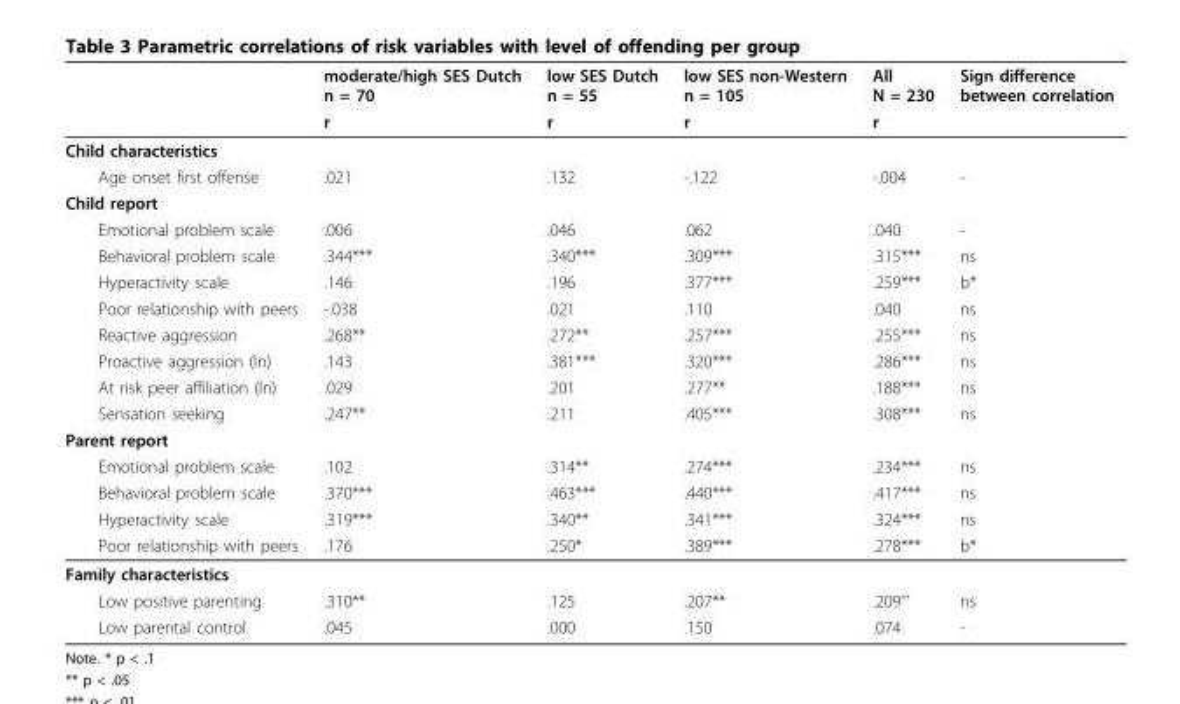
<table><thead><tr><td rowspan="2"></td><td rowspan="2">moderate/high SES Dutch n = 70 r</td><td rowspan="2">low SES Dutch n = 55 r</td><td rowspan="2">low SES non-Western n = 105 r</td><td rowspan="2">All N = 230 r</td><td rowspan="2">Sign difference between correlation</td></tr><tr></tr></thead><tbody><tr><td colspan="6">Child characteristics</td></tr><tr><td>Age onset first offense</td><td>.021</td><td>.132</td><td>-.122</td><td>-.004</td><td>-</td></tr><tr><td colspan="6">Child report</td></tr><tr><td>Emotional problem scale</td><td>.006</td><td>.046</td><td>.062</td><td>.040</td><td>-</td></tr><tr><td>Behavioral problem scale</td><td>.344***</td><td>.340***</td><td>.309***</td><td>.315***</td><td>ns</td></tr><tr><td>Hyperactivity scale</td><td>.146</td><td>.196</td><td>.377***</td><td>.259***</td><td>b*</td></tr><tr><td>Poor relationship with peers</td><td>-.038</td><td>.021</td><td>.110</td><td>.040</td><td>ns</td></tr><tr><td>Reactive aggression</td><td>.268**</td><td>.272**</td><td>.257***</td><td>.255***</td><td>ns</td></tr><tr><td>Proactive aggression (ln)</td><td>.143</td><td>.381***</td><td>.320***</td><td>.286***</td><td>ns</td></tr><tr><td>At risk peer affiliation (ln)</td><td>.029</td><td>.201</td><td>.277**</td><td>.188***</td><td>ns</td></tr><tr><td>Sensation seeking</td><td>.247**</td><td>.211</td><td>.405***</td><td>.308***</td><td>ns</td></tr><tr><td colspan="6">Parent report</td></tr><tr><td>Emotional problem scale</td><td>.102</td><td>.314**</td><td>.274***</td><td>.234***</td><td>ns</td></tr><tr><td>Behavioral problem scale</td><td>.370***</td><td>.463***</td><td>.440***</td><td>.417***</td><td>ns</td></tr><tr><td>Hyperactivity scale</td><td>.319***</td><td>.340**</td><td>.341***</td><td>.324***</td><td>ns</td></tr><tr><td>Poor relationship with peers</td><td>.176</td><td>.250*</td><td>.389***</td><td>.278***</td><td>b*</td></tr><tr><td colspan="6">Family characteristics</td></tr><tr><td>Low positive parenting</td><td>.310**</td><td>.125</td><td>.207**</td><td>.209’’’</td><td>ns</td></tr><tr><td>Low parental control</td><td>.045</td><td>.000</td><td>.150</td><td>.074</td><td>-</td></tr></tbody></table>